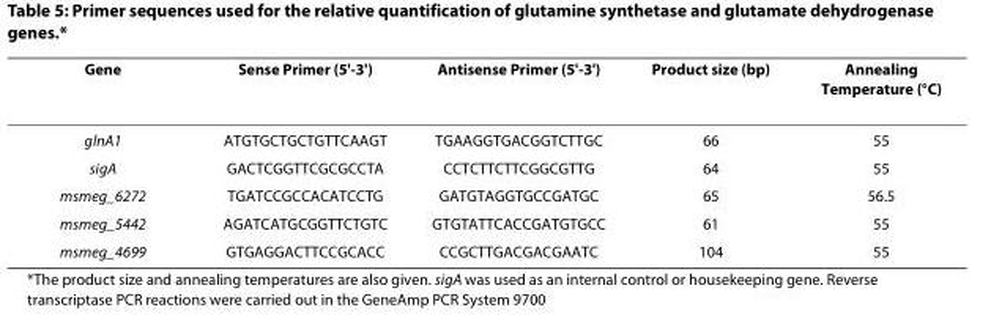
<table><thead><tr><td>Gene</td><td>Sense Primer (5&#x27;-3&#x27;)</td><td>Antisense Primer (5&#x27;-3&#x27;)</td><td>Product size (bp)</td><td>Annealing Temperature (°C)</td></tr></thead><tbody><tr><td>glnA1</td><td>ATGTGCTGCTGTTCAAGT</td><td>TGAAGGTGACGGTCTTGC</td><td>66</td><td>55</td></tr><tr><td>sigA</td><td>GACTCGGTTCGCGCCTA</td><td>CCTCTTCTTCGGCGTTG</td><td>64</td><td>55</td></tr><tr><td>msmeg_6272</td><td>TGATCCGCCACATCCTG</td><td>GATGTAGGTGCCGATGC</td><td>65</td><td>56.5</td></tr><tr><td>msmeg_5442</td><td>AGATCATGCGGTTCTGTC</td><td>GTGTATTCACCGATGTGCC</td><td>61</td><td>55</td></tr><tr><td>msmeg_4699</td><td>GTGAGGACTTCCGCACC</td><td>CCGCTTGACGACGAATC</td><td>104</td><td>55</td></tr></tbody></table>